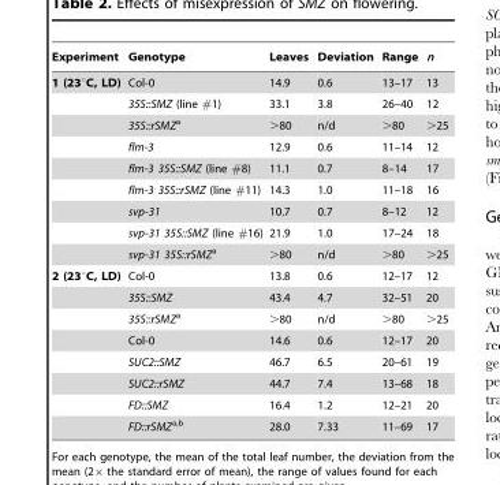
<table><thead><tr><td>Experiment</td><td>Genotype</td><td>Leaves</td><td>Deviation</td><td>Range</td><td>n</td></tr></thead><tbody><tr><td rowspan="9">1 (23°C, LD)</td><td>Col-0</td><td>14.9</td><td>0.6</td><td>13–17</td><td>13</td></tr><tr><td>35S::SMZ (line #1)</td><td>33.1</td><td>3.8</td><td>26–40</td><td>12</td></tr><tr><td>35S::rSMZa</td><td>&gt;80</td><td>n/d</td><td>&gt;80</td><td>&gt;25</td></tr><tr><td>flm-3</td><td>12.9</td><td>0.6</td><td>11–14</td><td>12</td></tr><tr><td>flm-3 35S::SMZ (line #8)</td><td>11.1</td><td>0.7</td><td>8–14</td><td>17</td></tr><tr><td>flm-3 35S::rSMZ (line #11)</td><td>14.3</td><td>1.0</td><td>11–18</td><td>16</td></tr><tr><td>svp-31</td><td>10.7</td><td>0.7</td><td>8–12</td><td>12</td></tr><tr><td>svp-31 35S::SMZ (line #16)</td><td>21.9</td><td>1.0</td><td>17–24</td><td>18</td></tr><tr><td>svp-31 35S::rSMZa</td><td>&gt;80</td><td>n/d</td><td>&gt;80</td><td>&gt;25</td></tr><tr><td rowspan="8">2 (23°C, LD)</td><td>Col-0</td><td>13.8</td><td>0.6</td><td>12–17</td><td>12</td></tr><tr><td>35S::SMZ</td><td>43.4</td><td>4.7</td><td>32–51</td><td>20</td></tr><tr><td>35S::rSMZa</td><td>&gt;80</td><td>n/d</td><td>&gt;80</td><td>&gt;25</td></tr><tr><td>Col-0</td><td>14.6</td><td>0.6</td><td>12–17</td><td>20</td></tr><tr><td>SUC2::SMZ</td><td>46.7</td><td>6.5</td><td>20–61</td><td>19</td></tr><tr><td>SUC2::rSMZ</td><td>44.7</td><td>7.4</td><td>13–68</td><td>18</td></tr><tr><td>FD::SMZ</td><td>16.4</td><td>1.2</td><td>12–21</td><td>20</td></tr><tr><td>FD::rSMZa<sup>,</sup>b</td><td>28.0</td><td>7.33</td><td>11–69</td><td>17</td></tr></tbody></table>